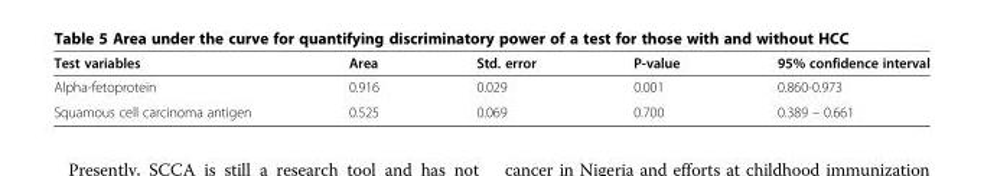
<table><thead><tr><td>Test variables</td><td>Area</td><td>Std. error</td><td>P-value</td><td>95% confidence interval</td></tr></thead><tbody><tr><td>Alpha-fetoprotein</td><td>0.916</td><td>0.029</td><td>0.001</td><td>0.860-0.973</td></tr><tr><td>Squamous cell carcinoma antigen</td><td>0.525</td><td>0.069</td><td>0.700</td><td>0.389 – 0.661</td></tr></tbody></table>